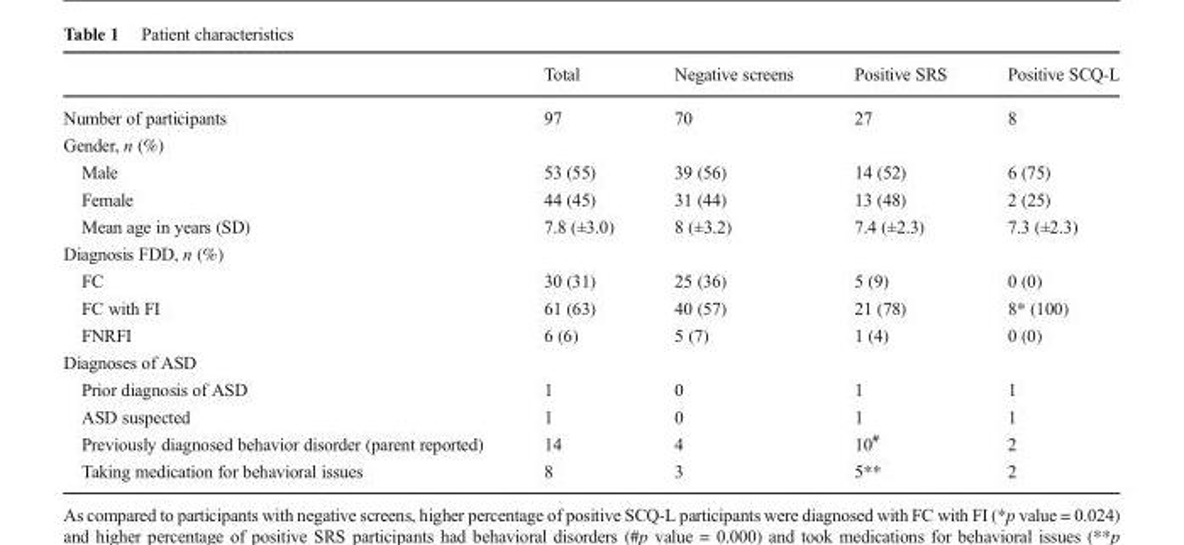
<table><thead><tr><td></td><td>Total</td><td>Negative screens</td><td>Positive SRS</td><td>Positive SCQ-L</td></tr></thead><tbody><tr><td>Number of participants</td><td>97</td><td>70</td><td>27</td><td>8</td></tr><tr><td colspan="5">Gender, n (%)</td></tr><tr><td>Male</td><td>53 (55)</td><td>39 (56)</td><td>14 (52)</td><td>6 (75)</td></tr><tr><td>Female</td><td>44 (45)</td><td>31 (44)</td><td>13 (48)</td><td>2 (25)</td></tr><tr><td>Mean age in years (SD)</td><td>7.8 (±3.0)</td><td>8 (±3.2)</td><td>7.4 (±2.3)</td><td>7.3 (±2.3)</td></tr><tr><td colspan="5">Diagnosis FDD, n (%)</td></tr><tr><td>FC</td><td>30 (31)</td><td>25 (36)</td><td>5 (9)</td><td>0 (0)</td></tr><tr><td>FC with FI</td><td>61 (63)</td><td>40 (57)</td><td>21 (78)</td><td>8* (100)</td></tr><tr><td>FNRFI</td><td>6 (6)</td><td>5 (7)</td><td>1 (4)</td><td>0 (0)</td></tr><tr><td colspan="5">Diagnoses of ASD</td></tr><tr><td>Prior diagnosis of ASD</td><td>1</td><td>0</td><td>1</td><td>1</td></tr><tr><td>ASD suspected</td><td>1</td><td>0</td><td>1</td><td>1</td></tr><tr><td>Previously diagnosed behavior disorder (parent reported)</td><td>14</td><td>4</td><td>10<sup>#</sup></td><td>2</td></tr><tr><td>Taking medication for behavioral issues</td><td>8</td><td>3</td><td>5**</td><td>2</td></tr></tbody></table>